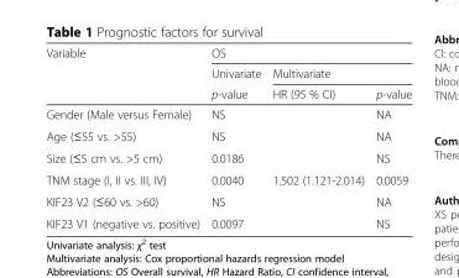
<table><thead><tr><td rowspan="3">Variable</td><td colspan="3">OS</td></tr><tr><td rowspan="2">Univariate p-value</td><td colspan="2">Multivariate</td></tr><tr><td>HR (95 % CI)</td><td>p-value</td></tr></thead><tbody><tr><td>Gender (Male versus Female)</td><td>NS</td><td></td><td>NA</td></tr><tr><td>Age (≤55 vs. &gt;55)</td><td>NS</td><td></td><td>NA</td></tr><tr><td>Size (≤5 cm vs. &gt;5 cm)</td><td>0.0186</td><td></td><td>NS</td></tr><tr><td>TNM stage (I, II vs. III, IV)</td><td>0.0040</td><td>1.502 (1.121-2.014)</td><td>0.0059</td></tr><tr><td>KIF23 V2 (≤60 vs. &gt;60)</td><td>NS</td><td></td><td>NA</td></tr><tr><td>KIF23 V1 (negative vs. positive)</td><td>0.0097</td><td></td><td>NS</td></tr></tbody></table>